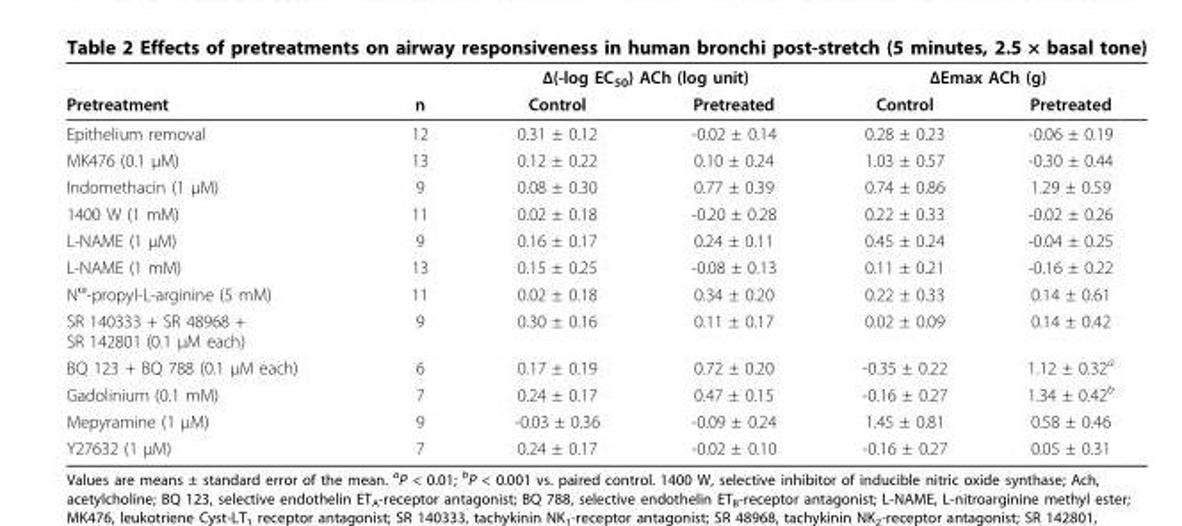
<table><thead><tr><td rowspan="2">Pretreatment</td><td rowspan="2">n</td><td colspan="2">Δ(-log EC<sub>50</sub>) ACh (log unit)</td><td colspan="2">ΔEmax ACh (g)</td></tr><tr><td>Control</td><td>Pretreated</td><td>Control</td><td>Pretreated</td></tr></thead><tbody><tr><td>Epithelium removal</td><td>12</td><td>0.31 ± 0.12</td><td>-0.02 ± 0.14</td><td>0.28 ± 0.23</td><td>-0.06 ± 0.19</td></tr><tr><td>MK476 (0.1 μM)</td><td>13</td><td>0.12 ± 0.22</td><td>0.10 ± 0.24</td><td>1.03 ± 0.57</td><td>-0.30 ± 0.44</td></tr><tr><td>Indomethacin (1 μM)</td><td>9</td><td>0.08 ± 0.30</td><td>0.77 ± 0.39</td><td>0.74 ± 0.86</td><td>1.29 ± 0.59</td></tr><tr><td>1400 W (1 mM)</td><td>11</td><td>0.02 ± 0.18</td><td>-0.20 ± 0.28</td><td>0.22 ± 0.33</td><td>-0.02 ± 0.26</td></tr><tr><td>L-NAME (1 μM)</td><td>9</td><td>0.16 ± 0.17</td><td>0.24 ± 0.11</td><td>0.45 ± 0.24</td><td>-0.04 ± 0.25</td></tr><tr><td>L-NAME (1 mM)</td><td>13</td><td>0.15 ± 0.25</td><td>-0.08 ± 0.13</td><td>0.11 ± 0.21</td><td>-0.16 ± 0.22</td></tr><tr><td>N<sup>ω</sup>-propyl-L-arginine (5 mM)</td><td>11</td><td>0.02 ± 0.18</td><td>0.34 ± 0.20</td><td>0.22 ± 0.33</td><td>0.14 ± 0.61</td></tr><tr><td>SR 140333 + SR 48968 + SR 142801 (0.1 μM each)</td><td>9</td><td>0.30 ± 0.16</td><td>0.11 ± 0.17</td><td>0.02 ± 0.09</td><td>0.14 ± 0.42</td></tr><tr><td>BQ 123 + BQ 788 (0.1 μM each)</td><td>6</td><td>0.17 ± 0.19</td><td>0.72 ± 0.20</td><td>-0.35 ± 0.22</td><td>1.12 ± 0.32<sup>a</sup></td></tr><tr><td>Gadolinium (0.1 mM)</td><td>7</td><td>0.24 ± 0.17</td><td>0.47 ± 0.15</td><td>-0.16 ± 0.27</td><td>1.34 ± 0.42<sup>b</sup></td></tr><tr><td>Mepyramine (1 μM)</td><td>9</td><td>-0.03 ± 0.36</td><td>-0.09 ± 0.24</td><td>1.45 ± 0.81</td><td>0.58 ± 0.46</td></tr><tr><td>Y27632 (1 μM)</td><td>7</td><td>0.24 ± 0.17</td><td>-0.02 ± 0.10</td><td>-0.16 ± 0.27</td><td>0.05 ± 0.31</td></tr></tbody></table>